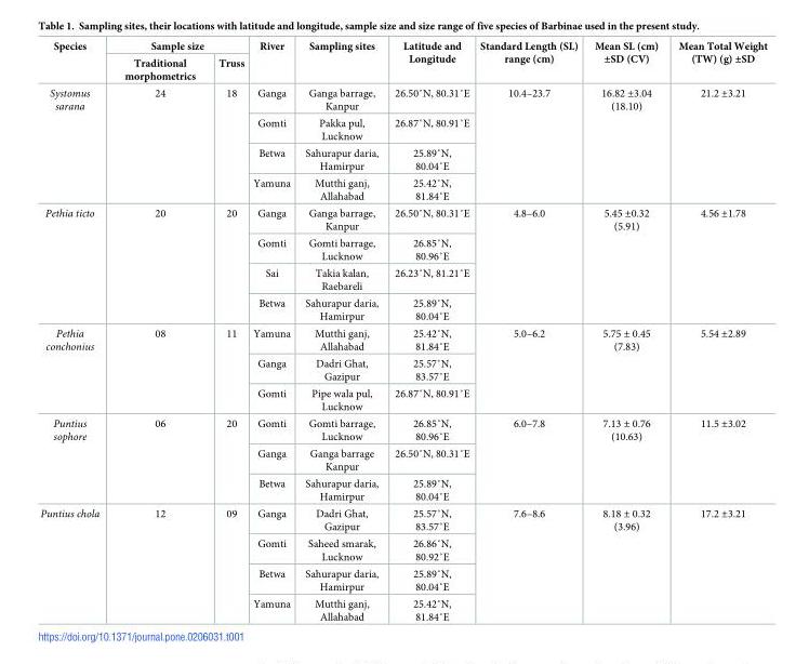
<table><thead><tr><td rowspan="2">Species</td><td colspan="2">Sample size</td><td rowspan="2">River</td><td rowspan="2">Sampling sites</td><td rowspan="2">Latitude and Longitude</td><td rowspan="2">Standard Length (SL) range (cm)</td><td rowspan="2">Mean SL (cm) ±SD (CV)</td><td rowspan="2">Mean Total Weight (TW) (g) ±SD</td></tr><tr><td>Traditional morphometrics</td><td>Truss</td></tr></thead><tbody><tr><td rowspan="4">Systomus sarana</td><td rowspan="4">24</td><td rowspan="4">18</td><td>Ganga</td><td>Ganga barrage, Kanpur</td><td>26.50˚N, 80.31˚E</td><td rowspan="4">10.4–23.7</td><td rowspan="4">16.82 ±3.04 (18.10)</td><td rowspan="4">21.2 ±3.21</td></tr><tr><td>Gomti</td><td>Pakka pul, Lucknow</td><td>26.87˚N, 80.91˚E</td></tr><tr><td>Betwa</td><td>Sahurapur daria, Hamirpur</td><td>25.89˚N, 80.04˚E</td></tr><tr><td>Yamuna</td><td>Mutthi ganj, Allahabad</td><td>25.42˚N, 81.84˚E</td></tr><tr><td rowspan="4">Pethia ticto</td><td rowspan="4">20</td><td rowspan="4">20</td><td>Ganga</td><td>Ganga barrage, Kanpur</td><td>26.50˚N, 80.31˚E</td><td rowspan="4">4.8–6.0</td><td rowspan="4">5.45 ±0.32 (5.91)</td><td rowspan="4">4.56 ±1.78</td></tr><tr><td>Gomti</td><td>Gomti barrage, Lucknow</td><td>26.85˚N, 80.96˚E</td></tr><tr><td>Sai</td><td>Takia kalan, Raebareli</td><td>26.23˚N, 81.21˚E</td></tr><tr><td>Betwa</td><td>Sahurapur daria, Hamirpur</td><td>25.89˚N, 80.04˚E</td></tr><tr><td rowspan="3">Pethia conchonius</td><td rowspan="3">08</td><td rowspan="3">11</td><td>Yamuna</td><td>Mutthi ganj, Allahabad</td><td>25.42˚N, 81.84˚E</td><td rowspan="3">5.0–6.2</td><td rowspan="3">5.75 ± 0.45 (7.83)</td><td rowspan="3">5.54 ±2.89</td></tr><tr><td>Ganga</td><td>Dadri Ghat, Gazipur</td><td>25.57˚N, 83.57˚E</td></tr><tr><td>Gomti</td><td>Pipe wala pul, Lucknow</td><td>26.87˚N, 80.91˚E</td></tr><tr><td rowspan="3">Puntius sophore</td><td rowspan="3">06</td><td rowspan="3">20</td><td>Gomti</td><td>Gomti barrage, Lucknow</td><td>26.85˚N, 80.96˚E</td><td rowspan="3">6.0–7.8</td><td rowspan="3">7.13 ± 0.76 (10.63)</td><td rowspan="3">11.5 ±3.02</td></tr><tr><td>Ganga</td><td>Ganga barrage Kanpur</td><td>26.50˚N, 80.31˚E</td></tr><tr><td>Betwa</td><td>Sahurapur daria, Hamirpur</td><td>25.89˚N, 80.04˚E</td></tr><tr><td rowspan="4">Puntius chola</td><td rowspan="4">12</td><td rowspan="4">09</td><td>Ganga</td><td>Dadri Ghat, Gazipur</td><td>25.57˚N, 83.57˚E</td><td rowspan="4">7.6–8.6</td><td rowspan="4">8.18 ± 0.32 (3.96)</td><td rowspan="4">17.2 ±3.21</td></tr><tr><td>Gomti</td><td>Saheed smarak, Lucknow</td><td>26.86˚N, 80.92˚E</td></tr><tr><td>Betwa</td><td>Sahurapur daria, Hamirpur</td><td>25.89˚N, 80.04˚E</td></tr><tr><td>Yamuna</td><td>Mutthi ganj, Allahabad</td><td>25.42˚N, 81.84˚E</td></tr></tbody></table>